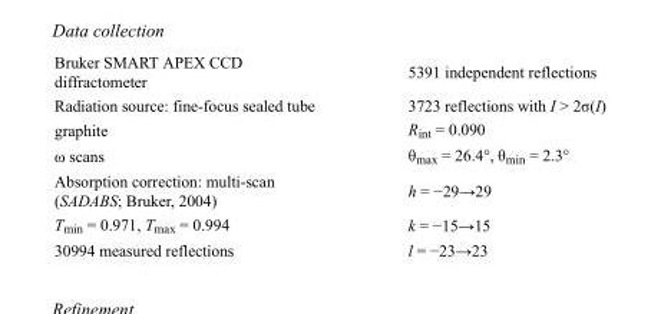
<table><tbody><tr><td>Bruker SMART APEX CCD diffractometer</td><td>5391 independent reflections</td></tr><tr><td>Radiation source: fine-focus sealed tube</td><td>3723 reflections with I &gt; 2σ(I)</td></tr><tr><td>graphite</td><td>R<sub>int</sub> = 0.090</td></tr><tr><td>ω scans</td><td>θ<sub>max</sub> = 26.4°, θ<sub>min</sub> = 2.3°</td></tr><tr><td>Absorption correction: multi-scan (SADABS; Bruker, 2004)</td><td>h = −29→29</td></tr><tr><td>T<sub>min</sub> = 0.971, T<sub>max</sub> = 0.994</td><td>k = −15→15</td></tr><tr><td>30994 measured reflections</td><td>l = −23→23</td></tr></tbody></table>